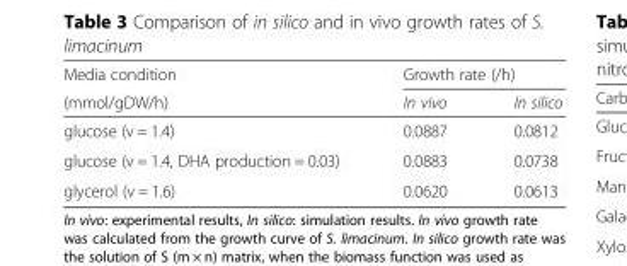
<table><thead><tr><td rowspan="2">Media condition (mmol/gDW/h)</td><td colspan="2">Growth rate (/h)</td></tr><tr><td>In vivo</td><td>In silico</td></tr></thead><tbody><tr><td>glucose (v = 1.4)</td><td>0.0887</td><td>0.0812</td></tr><tr><td>glucose (v = 1.4, DHA production = 0.03)</td><td>0.0883</td><td>0.0738</td></tr><tr><td>glycerol (v = 1.6)</td><td>0.0620</td><td>0.0613</td></tr></tbody></table>